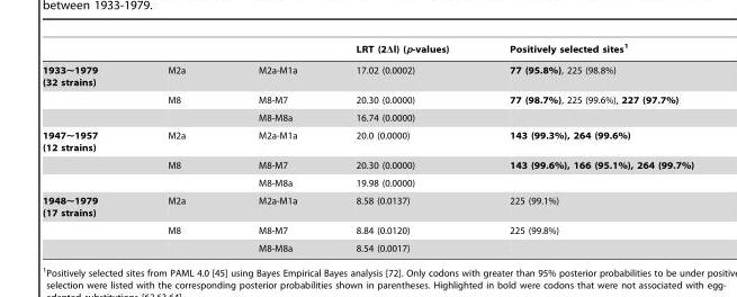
<table><thead><tr><td></td><td></td><td></td><td>LRT (2Δl) (p-values)</td><td>Positively selected sites<sup>1</sup></td></tr></thead><tbody><tr><td rowspan="3">1933∼1979 (32 strains)</td><td>M2a</td><td>M2a-M1a</td><td>17.02 (0.0002)</td><td>77 (95.8%), 225 (98.8%)</td></tr><tr><td>M8</td><td>M8-M7</td><td>20.30 (0.0000)</td><td>77 (98.7%), 225 (99.6%), 227 (97.7%)</td></tr><tr><td></td><td>M8-M8a</td><td>16.74 (0.0000)</td><td></td></tr><tr><td rowspan="3">1947∼1957 (12 strains)</td><td>M2a</td><td>M2a-M1a</td><td>20.0 (0.0000)</td><td>143 (99.3%), 264 (99.6%)</td></tr><tr><td>M8</td><td>M8-M7</td><td>20.30 (0.0000)</td><td>143 (99.6%), 166 (95.1%), 264 (99.7%)</td></tr><tr><td></td><td>M8-M8a</td><td>19.98 (0.0000)</td><td></td></tr><tr><td rowspan="3">1948∼1979 (17 strains)</td><td>M2a</td><td>M2a-M1a</td><td>8.58 (0.0137)</td><td>225 (99.1%)</td></tr><tr><td>M8</td><td>M8-M7</td><td>8.84 (0.0120)</td><td>225 (99.8%)</td></tr><tr><td></td><td>M8-M8a</td><td>8.54 (0.0017)</td><td></td></tr></tbody></table>